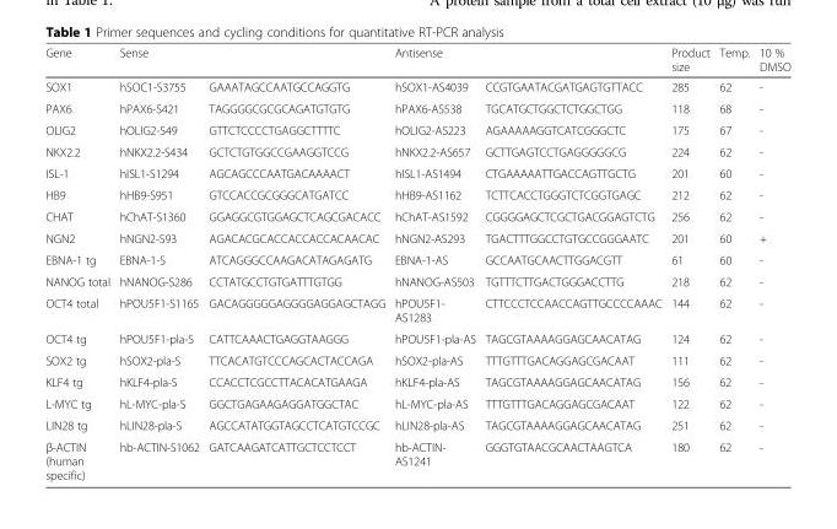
<table><thead><tr><td rowspan="2">Gene SOX1</td><td colspan="2">Sense</td><td colspan="2">Antisense</td><td rowspan="2">Product size 285</td><td rowspan="2">Temp. 62</td><td rowspan="2">10 % DMSO -</td></tr><tr><td>hSOC1-S3755</td><td>GAAATAGCCAATGCCAGGTG</td><td>hSOX1-AS4039</td><td>CCGTGAATACGATGAGTGTTACC</td></tr></thead><tbody><tr><td>PAX6</td><td>hPAX6-S421</td><td>TAGGGGCGCGCAGATGTGTG</td><td>hPAX6-AS538</td><td>TGCATGCTGGCTCTGGCTGG</td><td>118</td><td>68</td><td>-</td></tr><tr><td>OLIG2</td><td>hOLIG2-S49</td><td>GTTCTCCCCTGAGGCTTTTC</td><td>hOLIG2-AS223</td><td>AGAAAAAGGTCATCGGGCTC</td><td>175</td><td>67</td><td>-</td></tr><tr><td>NKX2.2</td><td>hNKX2.2-S434</td><td>GCTCTGTGGCCGAAGGTCCG</td><td>hNKX2.2-AS657</td><td>GCTTGAGTCCTGAGGGGGCG</td><td>224</td><td>62</td><td>-</td></tr><tr><td>ISL-1</td><td>hISL1-S1294</td><td>AGCAGCCCAATGACAAAACT</td><td>hISL1-AS1494</td><td>CTGAAAAATTGACCAGTTGCTG</td><td>201</td><td>60</td><td>-</td></tr><tr><td>HB9</td><td>hHB9-S951</td><td>GTCCACCGCGGGCATGATCC</td><td>hHB9-AS1162</td><td>TCTTCACCTGGGTCTCGGTGAGC</td><td>212</td><td>62</td><td>-</td></tr><tr><td>CHAT</td><td>hChAT-S1360</td><td>GGAGGCGTGGAGCTCAGCGACACC</td><td>hChAT-AS1592</td><td>CGGGGAGCTCGCTGACGGAGTCTG</td><td>256</td><td>62</td><td>-</td></tr><tr><td>NGN2</td><td>hNGN2-S93</td><td>AGACACGCACCACCACCACAACAC</td><td>hNGN2-AS293</td><td>TGACTTTGGCCTGTGCCGGGAATC</td><td>201</td><td>60</td><td>+</td></tr><tr><td>EBNA-1 tg</td><td>EBNA-1-S</td><td>ATCAGGGCCAAGACATAGAGATG</td><td>EBNA-1-AS</td><td>GCCAATGCAACTTGGACGTT</td><td>61</td><td>60</td><td>-</td></tr><tr><td>NANOG total</td><td>hNANOG-S286</td><td>CCTATGCCTGTGATTTGTGG</td><td>hNANOG-AS503</td><td>TGTTTCTTGACTGGGACCTTG</td><td>218</td><td>62</td><td>-</td></tr><tr><td>OCT4 total</td><td>hPOU5F1-S1165</td><td>GACAGGGGGAGGGGAGGAGCTAGG</td><td>hPOU5F1- AS1283</td><td>CTTCCCTCCAACCAGTTGCCCCAAAC</td><td>144</td><td>62</td><td>-</td></tr><tr><td>OCT4 tg</td><td>hPOU5F1-pla-S</td><td>CATTCAAACTGAGGTAAGGG</td><td>hPOU5F1-pla-AS</td><td>TAGCGTAAAAGGAGCAACATAG</td><td>124</td><td>62</td><td>-</td></tr><tr><td>SOX2 tg</td><td>hSOX2-pla-S</td><td>TTCACATGTCCCAGCACTACCAGA</td><td>hSOX2-pla-AS</td><td>TTTGTTTGACAGGAGCGACAAT</td><td>111</td><td>62</td><td>-</td></tr><tr><td>KLF4 tg</td><td>hKLF4-pla-S</td><td>CCACCTCGCCTTACACATGAAGA</td><td>hKLF4-pla-AS</td><td>TAGCGTAAAAGGAGCAACATAG</td><td>156</td><td>62</td><td>-</td></tr><tr><td>L-MYC tg</td><td>hL-MYC-pla-S</td><td>GGCTGAGAAGAGGATGGCTAC</td><td>hL-MYC-pla-AS</td><td>TTTGTTTGACAGGAGCGACAAT</td><td>122</td><td>62</td><td>-</td></tr><tr><td>LIN28 tg</td><td>hLIN28-pla-S</td><td>AGCCATATGGTAGCCTCATGTCCGC</td><td>hLIN28-pla-AS</td><td>TAGCGTAAAAGGAGCAACATAG</td><td>251</td><td>62</td><td>-</td></tr><tr><td>β-ACTIN (human specific)</td><td>hb-ACTIN-S1062</td><td>GATCAAGATCATTGCTCCTCCT</td><td>hb-ACTIN- AS1241</td><td>GGGTGTAACGCAACTAAGTCA</td><td>180</td><td>62</td><td>-</td></tr></tbody></table>